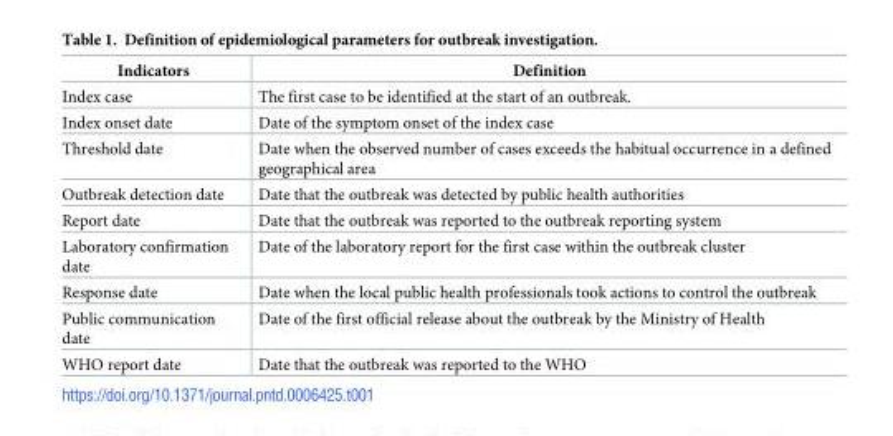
<table><thead><tr><td>Indicators</td><td>Definition</td></tr></thead><tbody><tr><td>Index case</td><td>The first case to be identified at the start of an outbreak.</td></tr><tr><td>Index onset date</td><td>Date of the symptom onset of the index case</td></tr><tr><td>Threshold date</td><td>Date when the observed number of cases exceeds the habitual occurrence in a defined geographical area</td></tr><tr><td>Outbreak detection date</td><td>Date that the outbreak was detected by public health authorities</td></tr><tr><td>Report date</td><td>Date that the outbreak was reported to the outbreak reporting system</td></tr><tr><td>Laboratory confirmation date</td><td>Date of the laboratory report for the first case within the outbreak cluster</td></tr><tr><td>Response date</td><td>Date when the local public health professionals took actions to control the outbreak</td></tr><tr><td>Public communication date</td><td>Date of the first official release about the outbreak by the Ministry of Health</td></tr><tr><td>WHO report date</td><td>Date that the outbreak was reported to the WHO</td></tr></tbody></table>